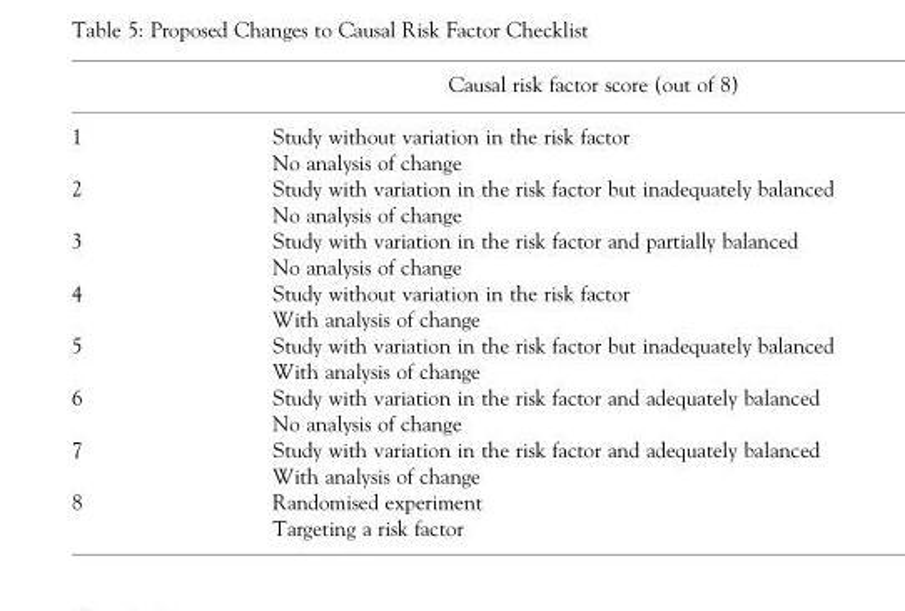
<table><thead><tr><td></td><td>Causal risk factor score (out of 8)</td></tr></thead><tbody><tr><td rowspan="2">1</td><td>Study without variation in the risk factor</td></tr><tr><td>No analysis of change</td></tr><tr><td rowspan="2">2</td><td>Study with variation in the risk factor but inadequately balanced</td></tr><tr><td>No analysis of change</td></tr><tr><td rowspan="2">3</td><td>Study with variation in the risk factor and partially balanced</td></tr><tr><td>No analysis of change</td></tr><tr><td rowspan="2">4</td><td>Study without variation in the risk factor</td></tr><tr><td>With analysis of change</td></tr><tr><td rowspan="2">5</td><td>Study with variation in the risk factor but inadequately balanced</td></tr><tr><td>With analysis of change</td></tr><tr><td rowspan="2">6</td><td>Study with variation in the risk factor and adequately balanced</td></tr><tr><td>No analysis of change</td></tr><tr><td rowspan="2">7</td><td>Study with variation in the risk factor and adequately balanced</td></tr><tr><td>With analysis of change</td></tr><tr><td rowspan="2">8</td><td>Randomised experiment</td></tr><tr><td>Targeting a risk factor</td></tr></tbody></table>